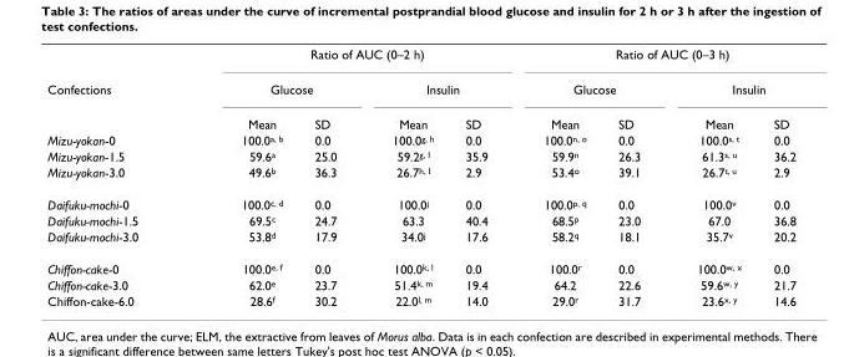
<table><thead><tr><td rowspan="3">Confections</td><td colspan="4">Ratio of AUC (0–2 h)</td><td colspan="4">Ratio of AUC (0–3 h)</td></tr><tr><td colspan="2">Glucose</td><td colspan="2">Insulin</td><td colspan="2">Glucose</td><td colspan="2">Insulin</td></tr><tr><td>Mean</td><td>SD</td><td>Mean</td><td>SD</td><td>Mean</td><td>SD</td><td>Mean</td><td>SD</td></tr></thead><tbody><tr><td>Mizu-yokan-0</td><td>100.0<sup>a, b</sup></td><td>0.0</td><td>100.0<sup>g, h</sup></td><td>0.0</td><td>100.0<sup>n, o</sup></td><td>0.0</td><td>100.0<sup>s, t</sup></td><td>0.0</td></tr><tr><td>Mizu-yokan-1.5</td><td>59.6<sup>a</sup></td><td>25.0</td><td>59.2<sup>g, I</sup></td><td>35.9</td><td>59.9<sup>n</sup></td><td>26.3</td><td>61.3<sup>s, u</sup></td><td>36.2</td></tr><tr><td>Mizu-yokan-3.0</td><td>49.6<sup>b</sup></td><td>36.3</td><td>26.7<sup>h, I</sup></td><td>2.9</td><td>53.4<sup>o</sup></td><td>39.1</td><td>26.7<sup>t, u</sup></td><td>2.9</td></tr><tr><td>Daifuku-mochi-0</td><td>100.0<sup>c, d</sup></td><td>0.0</td><td>100.0<sup>j</sup></td><td>0.0</td><td>100.0<sup>p, q</sup></td><td>0.0</td><td>100.0<sup>v</sup></td><td>0.0</td></tr><tr><td>Daifuku-mochi-1.5</td><td>69.5<sup>c</sup></td><td>24.7</td><td>63.3</td><td>40.4</td><td>68.5<sup>p</sup></td><td>23.0</td><td>67.0</td><td>36.8</td></tr><tr><td>Daifuku-mochi-3.0</td><td>53.8<sup>d</sup></td><td>17.9</td><td>34.0<sup>j</sup></td><td>17.6</td><td>58.2<sup>q</sup></td><td>18.1</td><td>35.7<sup>v</sup></td><td>20.2</td></tr><tr><td>Chiffon-cake-0</td><td>100.0<sup>e, f</sup></td><td>0.0</td><td>100.0<sup>k, l</sup></td><td>0.0</td><td>100.0<sup>r</sup></td><td>0.0</td><td>100.0<sup>w, x</sup></td><td>0.0</td></tr><tr><td>Chiffon-cake-3.0</td><td>62.0<sup>e</sup></td><td>23.7</td><td>51.4<sup>k, m</sup></td><td>19.4</td><td>64.2</td><td>22.6</td><td>59.6<sup>w, y</sup></td><td>21.7</td></tr><tr><td>Chiffon-cake-6.0</td><td>28.6<sup>f</sup></td><td>30.2</td><td>22.0<sup>l, m</sup></td><td>14.0</td><td>29.0<sup>r</sup></td><td>31.7</td><td>23.6<sup>x, y</sup></td><td>14.6</td></tr></tbody></table>